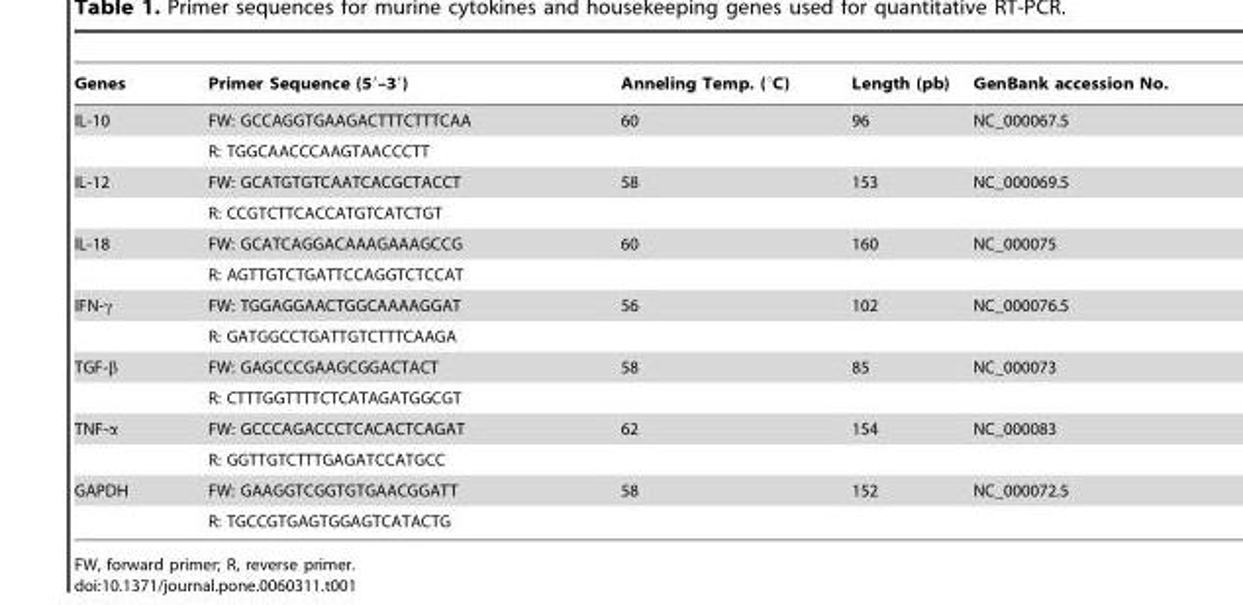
<table><thead><tr><td>Genes</td><td>Primer Sequence (5′–3′)</td><td>Anneling Temp. (°C)</td><td>Length (pb)</td><td>GenBank accession No.</td></tr></thead><tbody><tr><td rowspan="2">IL-10</td><td>FW: GCCAGGTGAAGACTTTCTTTCAA</td><td>60</td><td>96</td><td>NC_000067.5</td></tr><tr><td>R: TGGCAACCCAAGTAACCCTT</td><td></td><td></td><td></td></tr><tr><td rowspan="2">IL-12</td><td>FW: GCATGTGTCAATCACGCTACCT</td><td>58</td><td>153</td><td>NC_000069.5</td></tr><tr><td>R: CCGTCTTCACCATGTCATCTGT</td><td></td><td></td><td></td></tr><tr><td rowspan="2">IL-18</td><td>FW: GCATCAGGACAAAGAAAGCCG</td><td>60</td><td>160</td><td>NC_000075</td></tr><tr><td>R: AGTTGTCTGATTCCAGGTCTCCAT</td><td></td><td></td><td></td></tr><tr><td rowspan="2">IFN-γ</td><td>FW: TGGAGGAACTGGCAAAAGGAT</td><td>56</td><td>102</td><td>NC_000076.5</td></tr><tr><td>R: GATGGCCTGATTGTCTTTCAAGA</td><td></td><td></td><td></td></tr><tr><td rowspan="2">TGF-β</td><td>FW: GAGCCCGAAGCGGACTACT</td><td>58</td><td>85</td><td>NC_000073</td></tr><tr><td>R: CTTTGGTTTTCTCATAGATGGCGT</td><td></td><td></td><td></td></tr><tr><td rowspan="2">TNF-α</td><td>FW: GCCCAGACCCTCACACTCAGAT</td><td>62</td><td>154</td><td>NC_000083</td></tr><tr><td>R: GGTTGTCTTTGAGATCCATGCC</td><td></td><td></td><td></td></tr><tr><td rowspan="2">GAPDH</td><td>FW: GAAGGTCGGTGTGAACGGATT</td><td>58</td><td>152</td><td>NC_000072.5</td></tr><tr><td>R: TGCCGTGAGTGGAGTCATACTG</td><td></td><td></td><td></td></tr></tbody></table>